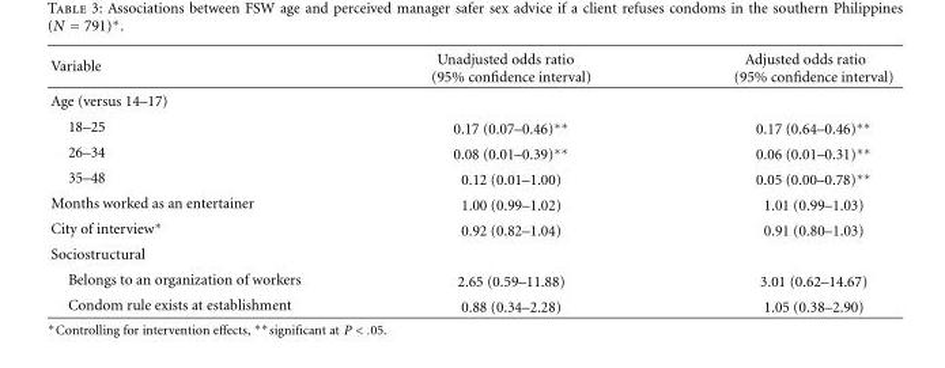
<table><thead><tr><td>Variable</td><td>Unadjusted odds ratio (95% confidence interval)</td><td>Adjusted odds ratio (95% confidence interval)</td></tr></thead><tbody><tr><td colspan="3">Age (versus 14–17)</td></tr><tr><td>18–25</td><td>0.17 (0.07–0.46)∗∗</td><td>0.17 (0.64–0.46)∗∗</td></tr><tr><td>26–34</td><td>0.08 (0.01–0.39)∗∗</td><td>0.06 (0.01–0.31)∗∗</td></tr><tr><td>35–48</td><td>0.12 (0.01–1.00)</td><td>0.05 (0.00–0.78)∗∗</td></tr><tr><td>Months worked as an entertainer</td><td>1.00 (0.99–1.02)</td><td>1.01 (0.99–1.03)</td></tr><tr><td>City of interview∗</td><td>0.92 (0.82–1.04)</td><td>0.91 (0.80–1.03)</td></tr><tr><td colspan="3">Sociostructural</td></tr><tr><td>Belongs to an organization of workers</td><td>2.65 (0.59–11.88)</td><td>3.01 (0.62–14.67)</td></tr><tr><td>Condom rule exists at establishment</td><td>0.88 (0.34–2.28)</td><td>1.05 (0.38–2.90)</td></tr></tbody></table>